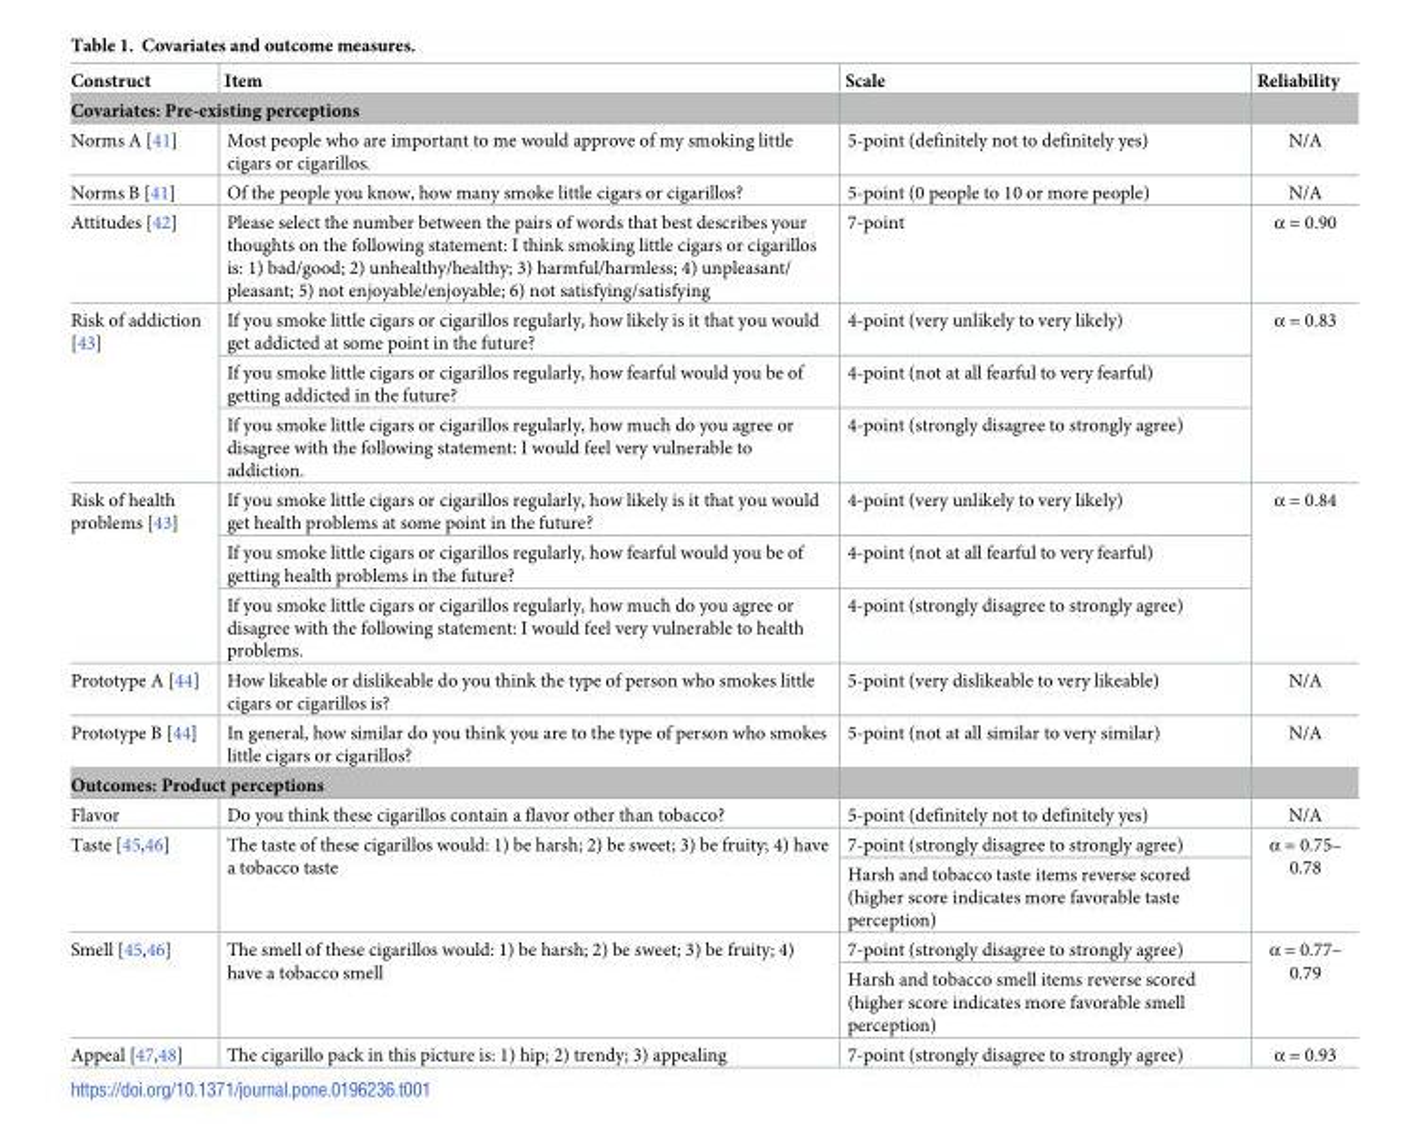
<table><thead><tr><td>Construct</td><td>Item</td><td>Scale</td><td>Reliability</td></tr></thead><tbody><tr><td colspan="4">Covariates: Pre-existing perceptions</td></tr><tr><td>Norms A [41]</td><td>Most people who are important to me would approve of my smoking little cigars or cigarillos.</td><td>5-point (definitely not to definitely yes)</td><td>N/A</td></tr><tr><td>Norms B [41]</td><td>Of the people you know, how many smoke little cigars or cigarillos?</td><td>5-point (0 people to 10 or more people)</td><td>N/A</td></tr><tr><td>Attitudes [42]</td><td>Please select the number between the pairs of words that best describes your thoughts on the following statement: I think smoking little cigars or cigarillos is: 1) bad/good; 2) unhealthy/healthy; 3) harmful/harmless; 4) unpleasant/ pleasant; 5) not enjoyable/enjoyable; 6) not satisfying/satisfying</td><td>7-point</td><td>α = 0.90</td></tr><tr><td rowspan="3">Risk of addiction [43]</td><td>If you smoke little cigars or cigarillos regularly, how likely is it that you would get addicted at some point in the future?</td><td>4-point (very unlikely to very likely)</td><td rowspan="3">α = 0.83</td></tr><tr><td>If you smoke little cigars or cigarillos regularly, how fearful would you be of getting addicted in the future?</td><td>4-point (not at all fearful to very fearful)</td></tr><tr><td>If you smoke little cigars or cigarillos regularly, how much do you agree or disagree with the following statement: I would feel very vulnerable to addiction.</td><td>4-point (strongly disagree to strongly agree)</td></tr><tr><td rowspan="3">Risk of health problems [43]</td><td>If you smoke little cigars or cigarillos regularly, how likely is it that you would get health problems at some point in the future?</td><td>4-point (very unlikely to very likely)</td><td rowspan="3">α = 0.84</td></tr><tr><td>If you smoke little cigars or cigarillos regularly, how fearful would you be of getting health problems in the future?</td><td>4-point (not at all fearful to very fearful)</td></tr><tr><td>If you smoke little cigars or cigarillos regularly, how much do you agree or disagree with the following statement: I would feel very vulnerable to health problems.</td><td>4-point (strongly disagree to strongly agree)</td></tr><tr><td>Prototype A [44]</td><td>How likeable or dislikeable do you think the type of person who smokes little cigars or cigarillos is?</td><td>5-point (very dislikeable to very likeable)</td><td>N/A</td></tr><tr><td>Prototype B [44]</td><td>In general, how similar do you think you are to the type of person who smokes little cigars or cigarillos?</td><td>5-point (not at all similar to very similar)</td><td>N/A</td></tr><tr><td colspan="4">Outcomes: Product perceptions</td></tr><tr><td>Flavor</td><td>Do you think these cigarillos contain a flavor other than tobacco?</td><td>5-point (definitely not to definitely yes)</td><td>N/A</td></tr><tr><td rowspan="2">Taste [45,46]</td><td rowspan="2">The taste of these cigarillos would: 1) be harsh; 2) be sweet; 3) be fruity; 4) have a tobacco taste</td><td>7-point (strongly disagree to strongly agree)</td><td rowspan="2">α = 0.75– 0.78</td></tr><tr><td>Harsh and tobacco taste items reverse scored (higher score indicates more favorable taste perception)</td></tr><tr><td rowspan="2">Smell [45,46]</td><td rowspan="2">The smell of these cigarillos would: 1) be harsh; 2) be sweet; 3) be fruity; 4) have a tobacco smell</td><td>7-point (strongly disagree to strongly agree)</td><td rowspan="2">α = 0.77– 0.79</td></tr><tr><td>Harsh and tobacco smell items reverse scored (higher score indicates more favorable smell perception)</td></tr><tr><td>Appeal [47,48]</td><td>The cigarillo pack in this picture is: 1) hip; 2) trendy; 3) appealing</td><td>7-point (strongly disagree to strongly agree)</td><td>α = 0.93</td></tr></tbody></table>